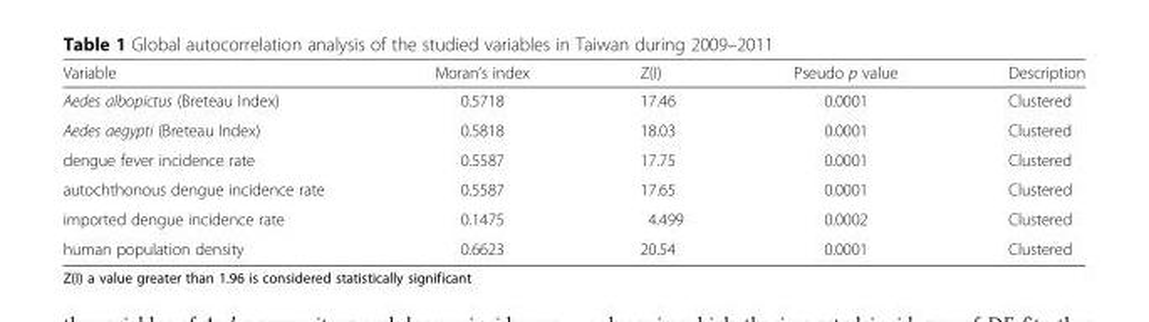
<table><thead><tr><td>Variable</td><td>Moran’s index</td><td>Z(I)</td><td>Pseudo p value</td><td>Description</td></tr></thead><tbody><tr><td>Aedes albopictus (Breteau Index)</td><td>0.5718</td><td>17.46</td><td>0.0001</td><td>Clustered</td></tr><tr><td>Aedes aegypti (Breteau Index)</td><td>0.5818</td><td>18.03</td><td>0.0001</td><td>Clustered</td></tr><tr><td>dengue fever incidence rate</td><td>0.5587</td><td>17.75</td><td>0.0001</td><td>Clustered</td></tr><tr><td>autochthonous dengue incidence rate</td><td>0.5587</td><td>17.65</td><td>0.0001</td><td>Clustered</td></tr><tr><td>imported dengue incidence rate</td><td>0.1475</td><td>4.499</td><td>0.0002</td><td>Clustered</td></tr><tr><td>human population density</td><td>0.6623</td><td>20.54</td><td>0.0001</td><td>Clustered</td></tr></tbody></table>